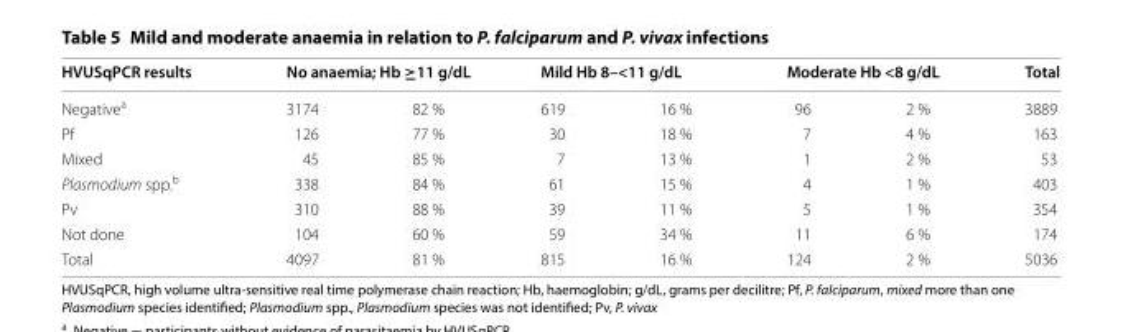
<table><thead><tr><td rowspan="2">HVUSqPCR results Negative<sup>a</sup></td><td colspan="2">No anaemia; Hb ≥11 g/dL</td><td colspan="2">Mild Hb 8–&lt;11 g/dL</td><td colspan="2">Moderate Hb &lt;8 g/dL</td><td rowspan="2">Total 3889</td></tr><tr><td>3174</td><td>82 %</td><td>619</td><td>16 %</td><td>96</td><td>2 %</td></tr></thead><tbody><tr><td>Pf</td><td>126</td><td>77 %</td><td>30</td><td>18 %</td><td>7</td><td>4 %</td><td>163</td></tr><tr><td>Mixed</td><td>45</td><td>85 %</td><td>7</td><td>13 %</td><td>1</td><td>2 %</td><td>53</td></tr><tr><td>Plasmodium spp.<sup>b</sup></td><td>338</td><td>84 %</td><td>61</td><td>15 %</td><td>4</td><td>1 %</td><td>403</td></tr><tr><td>Pv</td><td>310</td><td>88 %</td><td>39</td><td>11 %</td><td>5</td><td>1 %</td><td>354</td></tr><tr><td>Not done</td><td>104</td><td>60 %</td><td>59</td><td>34 %</td><td>11</td><td>6 %</td><td>174</td></tr><tr><td>Total</td><td>4097</td><td>81 %</td><td>815</td><td>16 %</td><td>124</td><td>2 %</td><td>5036</td></tr></tbody></table>